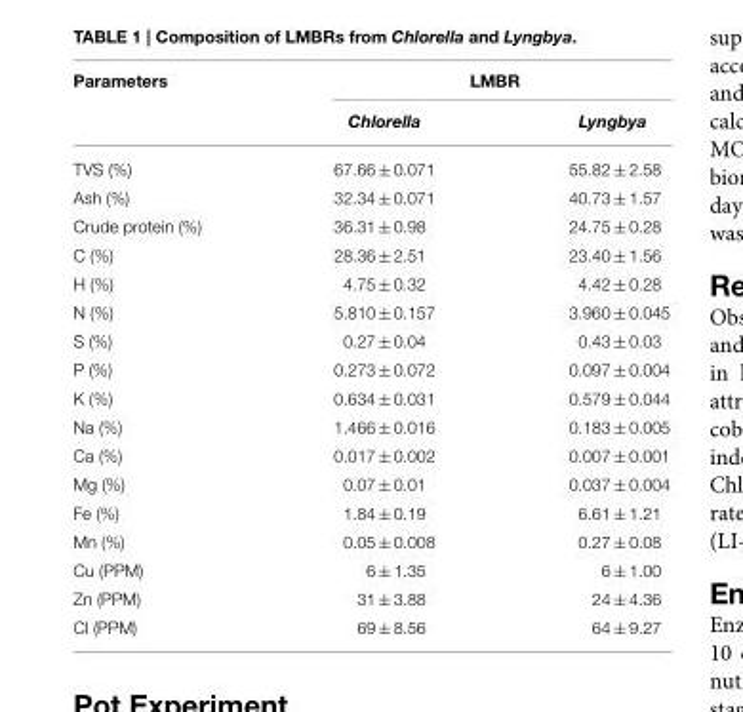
<table><thead><tr><td rowspan="2">Parameters</td><td colspan="2">LMBR</td></tr><tr><td>Chlorella</td><td>Lyngbya</td></tr></thead><tbody><tr><td>TVS (%)</td><td>67.66 ± 0.071</td><td>55.82 ± 2.58</td></tr><tr><td>Ash (%)</td><td>32.34 ± 0.071</td><td>40.73 ± 1.57</td></tr><tr><td>Crude protein (%)</td><td>36.31 ± 0.98</td><td>24.75 ± 0.28</td></tr><tr><td>C (%)</td><td>28.36 ± 2.51</td><td>23.40 ± 1.56</td></tr><tr><td>H (%)</td><td>4.75 ± 0.32</td><td>4.42 ± 0.28</td></tr><tr><td>N (%)</td><td>5.810 ± 0.157</td><td>3.960 ± 0.045</td></tr><tr><td>S (%)</td><td>0.27 ± 0.04</td><td>0.43 ± 0.03</td></tr><tr><td>P (%)</td><td>0.273 ± 0.072</td><td>0.097 ± 0.004</td></tr><tr><td>K (%)</td><td>0.634 ± 0.031</td><td>0.579 ± 0.044</td></tr><tr><td>Na (%)</td><td>1.466 ± 0.016</td><td>0.183 ± 0.005</td></tr><tr><td>Ca (%)</td><td>0.017 ± 0.002</td><td>0.007 ± 0.001</td></tr><tr><td>Mg (%)</td><td>0.07 ± 0.01</td><td>0.037 ± 0.004</td></tr><tr><td>Fe (%)</td><td>1.84 ± 0.19</td><td>6.61 ± 1.21</td></tr><tr><td>Mn (%)</td><td>0.05 ± 0.008</td><td>0.27 ± 0.08</td></tr><tr><td>Cu (PPM)</td><td>6 ± 1.35</td><td>6 ± 1.00</td></tr><tr><td>Zn (PPM)</td><td>31 ± 3.88</td><td>24 ± 4.36</td></tr><tr><td>Cl (PPM)</td><td>69 ± 8.56</td><td>64 ± 9.27</td></tr></tbody></table>